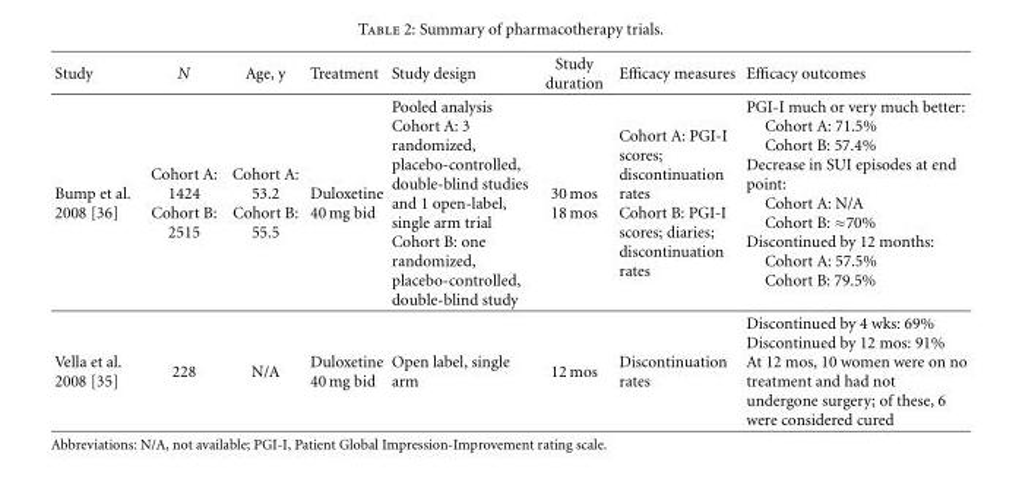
<table><thead><tr><td>Study</td><td>N</td><td>Age, y</td><td>Treatment</td><td>Study design</td><td>Study duration</td><td>Efficacy measures</td><td>Efficacy outcomes</td></tr></thead><tbody><tr><td>Bump et al. 2008 [36]</td><td>Cohort A: 1424 Cohort B: 2515</td><td>Cohort A: 53.2 Cohort B: 55.5</td><td>Duloxetine 40 mg bid</td><td>Pooled analysis Cohort A: 3 randomized, placebo-controlled, double-blind studies and 1 open-label, single arm trial Cohort B: one randomized, placebo-controlled, double-blind study</td><td>30 mos 18 mos</td><td>Cohort A: PGI-I scores; discontinuation rates Cohort B: PGI-I scores; diaries; discontinuation rates</td><td>PGI-I much or very much better: Cohort A: 71.5% Cohort B: 57.4% Decrease in SUI episodes at end point: Cohort A: N/A Cohort B: ≈70% Discontinued by 12 months: Cohort A: 57.5% Cohort B: 79.5%</td></tr><tr><td>Vella et al. 2008 [35]</td><td>228</td><td>N/A</td><td>Duloxetine 40 mg bid</td><td>Open label, single arm</td><td>12 mos</td><td>Discontinuation rates</td><td>Discontinued by 4 wks: 69% Discontinued by 12 mos: 91% At 12 mos, 10 women were on no treatment and had not undergone surgery; of these, 6 were considered cured</td></tr></tbody></table>